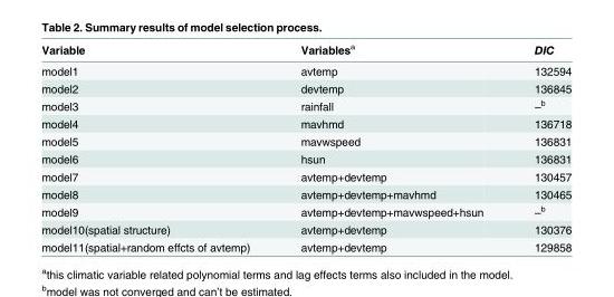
<table><thead><tr><td>Variable</td><td>Variables<sup>a</sup></td><td>DIC</td></tr></thead><tbody><tr><td>model1</td><td>avtemp</td><td>132594</td></tr><tr><td>model2</td><td>devtemp</td><td>136845</td></tr><tr><td>model3</td><td>rainfall</td><td>–<sup>b</sup></td></tr><tr><td>model4</td><td>mavhmd</td><td>136718</td></tr><tr><td>model5</td><td>mavwspeed</td><td>136831</td></tr><tr><td>model6</td><td>hsun</td><td>136831</td></tr><tr><td>model7</td><td>avtemp+devtemp</td><td>130457</td></tr><tr><td>model8</td><td>avtemp+devtemp+mavhmd</td><td>130465</td></tr><tr><td>model9</td><td>avtemp+devtemp+mavwspeed+hsun</td><td>–<sup>b</sup></td></tr><tr><td>model10(spatial structure)</td><td>avtemp+devtemp</td><td>130376</td></tr><tr><td>model11(spatial+random effcts of avtemp)</td><td>avtemp+devtemp</td><td>129858</td></tr></tbody></table>